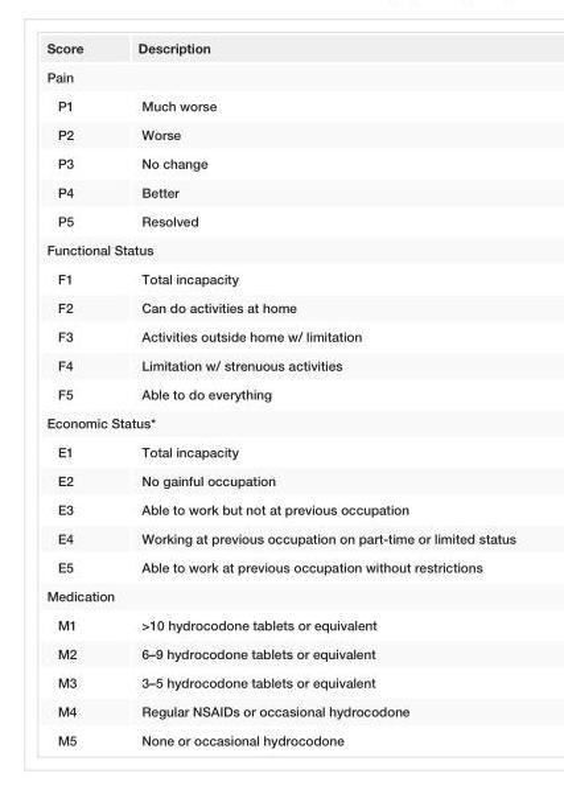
<table><tbody><tr><td>Score</td><td>Description</td></tr><tr><td colspan="2">Pain</td></tr><tr><td>P1</td><td>Much worse</td></tr><tr><td>P2</td><td>Worse</td></tr><tr><td>P3</td><td>No change</td></tr><tr><td>P4</td><td>Better</td></tr><tr><td>P5</td><td>Resolved</td></tr><tr><td colspan="2">Functional Status</td></tr><tr><td>F1</td><td>Total incapacity</td></tr><tr><td>F2</td><td>Can do activities at home</td></tr><tr><td>F3</td><td>Activities outside home w/ limitation</td></tr><tr><td>F4</td><td>Limitation w/ strenuous activities</td></tr><tr><td>F5</td><td>Able to do everything</td></tr><tr><td colspan="2">Economic Status*</td></tr><tr><td>E1</td><td>Total incapacity</td></tr><tr><td>E2</td><td>No gainful occupation</td></tr><tr><td>E3</td><td>Able to work but not at previous occupation</td></tr><tr><td>E4</td><td>Working at previous occupation on part-time or limited status</td></tr><tr><td>E5</td><td>Able to work at previous occupation without restrictions</td></tr><tr><td colspan="2">Medication</td></tr><tr><td>M1</td><td>&gt;10 hydrocodone tablets or equivalent</td></tr><tr><td>M2</td><td>6–9 hydrocodone tablets or equivalent</td></tr><tr><td>M3</td><td>3–5 hydrocodone tablets or equivalent</td></tr><tr><td>M4</td><td>Regular NSAIDs or occasional hydrocodone</td></tr><tr><td>M5</td><td>None or occasional hydrocodone</td></tr></tbody></table>